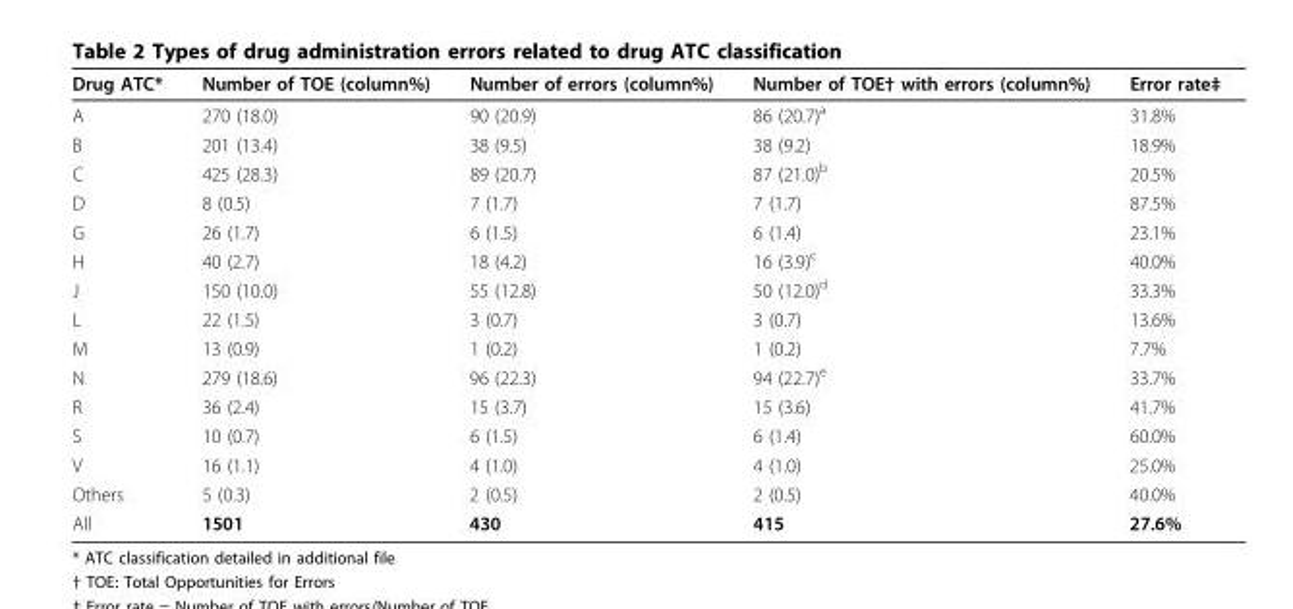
<table><thead><tr><td>Drug ATC*</td><td>Number of TOE (column%)</td><td>Number of errors (column%)</td><td>Number of TOE† with errors (column%)</td><td>Error rate‡</td></tr></thead><tbody><tr><td>A</td><td>270 (18.0)</td><td>90 (20.9)</td><td>86 (20.7)<sup>a</sup></td><td>31.8%</td></tr><tr><td>B</td><td>201 (13.4)</td><td>38 (9.5)</td><td>38 (9.2)</td><td>18.9%</td></tr><tr><td>C</td><td>425 (28.3)</td><td>89 (20.7)</td><td>87 (21.0)<sup>b</sup></td><td>20.5%</td></tr><tr><td>D</td><td>8 (0.5)</td><td>7 (1.7)</td><td>7 (1.7)</td><td>87.5%</td></tr><tr><td>G</td><td>26 (1.7)</td><td>6 (1.5)</td><td>6 (1.4)</td><td>23.1%</td></tr><tr><td>H</td><td>40 (2.7)</td><td>18 (4.2)</td><td>16 (3.9)<sup>c</sup></td><td>40.0%</td></tr><tr><td>J</td><td>150 (10.0)</td><td>55 (12.8)</td><td>50 (12.0)<sup>d</sup></td><td>33.3%</td></tr><tr><td>L</td><td>22 (1.5)</td><td>3 (0.7)</td><td>3 (0.7)</td><td>13.6%</td></tr><tr><td>M</td><td>13 (0.9)</td><td>1 (0.2)</td><td>1 (0.2)</td><td>7.7%</td></tr><tr><td>N</td><td>279 (18.6)</td><td>96 (22.3)</td><td>94 (22.7)<sup>e</sup></td><td>33.7%</td></tr><tr><td>R</td><td>36 (2.4)</td><td>15 (3.7)</td><td>15 (3.6)</td><td>41.7%</td></tr><tr><td>S</td><td>10 (0.7)</td><td>6 (1.5)</td><td>6 (1.4)</td><td>60.0%</td></tr><tr><td>V</td><td>16 (1.1)</td><td>4 (1.0)</td><td>4 (1.0)</td><td>25.0%</td></tr><tr><td>Others</td><td>5 (0.3)</td><td>2 (0.5)</td><td>2 (0.5)</td><td>40.0%</td></tr><tr><td>All</td><td>1501</td><td>430</td><td>415</td><td>27.6%</td></tr></tbody></table>